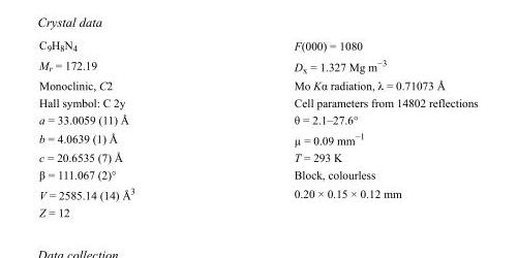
<table><tbody><tr><td>C<sub>9</sub>H<sub>8</sub>N<sub>4</sub></td><td>F(000) = 1080</td></tr><tr><td>M<sub>r</sub> = 172.19</td><td>D<sub>x</sub> = 1.327 Mg m<sup>−3</sup></td></tr><tr><td>Monoclinic, C2</td><td>Mo Kα radiation, λ = 0.71073 Å</td></tr><tr><td>Hall symbol: C 2y</td><td>Cell parameters from 14802 reflections</td></tr><tr><td>a = 33.0059 (11) Å</td><td>θ = 2.1–27.6°</td></tr><tr><td>b = 4.0639 (1) Å</td><td>µ = 0.09 mm<sup>−1</sup></td></tr><tr><td>c = 20.6535 (7) Å</td><td>T = 293 K</td></tr><tr><td>β = 111.067 (2)°</td><td>Block, colourless</td></tr><tr><td>V = 2585.14 (14) Å<sup>3</sup></td><td>0.20 × 0.15 × 0.12 mm</td></tr><tr><td>Z = 12</td><td></td></tr></tbody></table>